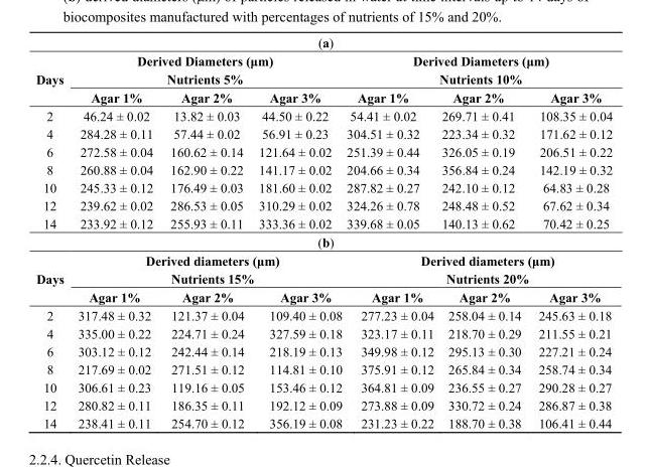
<table><tbody><tr><td colspan="7">(a)</td></tr><tr><td rowspan="3">Days</td><td colspan="3">Derived Diameters (μm)</td><td colspan="3">Derived Diameters (μm)</td></tr><tr><td colspan="3">Nutrients 5%</td><td colspan="3">Nutrients 10%</td></tr><tr><td>Agar 1%</td><td>Agar 2%</td><td>Agar 3%</td><td>Agar 1%</td><td>Agar 2%</td><td>Agar 3%</td></tr><tr><td>2</td><td>46.24 ± 0.02</td><td>13.82 ± 0.03</td><td>44.50 ± 0.22</td><td>54.41 ± 0.02</td><td>269.71 ± 0.41</td><td>108.35 ± 0.04</td></tr><tr><td>4</td><td>284.28 ± 0.11</td><td>57.44 ± 0.02</td><td>56.91 ± 0.23</td><td>304.51 ± 0.32</td><td>223.34 ± 0.32</td><td>171.62 ± 0.12</td></tr><tr><td>6</td><td>272.58 ± 0.04</td><td>160.62 ± 0.14</td><td>121.64 ± 0.02</td><td>251.39 ± 0.44</td><td>326.05 ± 0.19</td><td>206.51 ± 0.22</td></tr><tr><td>8</td><td>260.88 ± 0.04</td><td>162.90 ± 0.22</td><td>141.17 ± 0.02</td><td>204.66 ± 0.34</td><td>356.84 ± 0.24</td><td>142.19 ± 0.32</td></tr><tr><td>10</td><td>245.33 ± 0.12</td><td>176.49 ± 0.03</td><td>181.60 ± 0.02</td><td>287.82 ± 0.27</td><td>242.10 ± 0.12</td><td>64.83 ± 0.28</td></tr><tr><td>12</td><td>239.62 ± 0.02</td><td>286.53 ± 0.05</td><td>310.29 ± 0.02</td><td>324.26 ± 0.78</td><td>248.48 ± 0.52</td><td>67.62 ± 0.34</td></tr><tr><td>14</td><td>233.92 ± 0.12</td><td>255.93 ± 0.11</td><td>333.36 ± 0.02</td><td>339.68 ± 0.05</td><td>140.13 ± 0.62</td><td>70.42 ± 0.25</td></tr><tr><td colspan="7">(b)</td></tr><tr><td rowspan="3">Days</td><td colspan="3">Derived diameters (μm)</td><td colspan="3">Derived diameters (μm)</td></tr><tr><td colspan="3">Nutrients 15%</td><td colspan="3">Nutrients 20%</td></tr><tr><td>Agar 1%</td><td>Agar 2%</td><td>Agar 3%</td><td>Agar 1%</td><td>Agar 2%</td><td>Agar 3%</td></tr><tr><td>2</td><td>317.48 ± 0.32</td><td>121.37 ± 0.04</td><td>109.40 ± 0.08</td><td>277.23 ± 0.04</td><td>258.04 ± 0.14</td><td>245.63 ± 0.18</td></tr><tr><td>4</td><td>335.00 ± 0.22</td><td>224.71 ± 0.24</td><td>327.59 ± 0.18</td><td>323.17 ± 0.11</td><td>218.70 ± 0.29</td><td>211.55 ± 0.21</td></tr><tr><td>6</td><td>303.12 ± 0.12</td><td>242.44 ± 0.14</td><td>218.19 ± 0.13</td><td>349.98 ± 0.12</td><td>295.13 ± 0.30</td><td>227.21 ± 0.24</td></tr><tr><td>8</td><td>217.69 ± 0.02</td><td>271.51 ± 0.12</td><td>114.81 ± 0.10</td><td>375.91 ± 0.12</td><td>265.84 ± 0.34</td><td>258.74 ± 0.34</td></tr><tr><td>10</td><td>306.61 ± 0.23</td><td>119.16 ± 0.05</td><td>153.46 ± 0.12</td><td>364.81 ± 0.09</td><td>236.55 ± 0.27</td><td>290.28 ± 0.27</td></tr><tr><td>12</td><td>280.82 ± 0.11</td><td>186.35 ± 0.11</td><td>192.12 ± 0.09</td><td>273.88 ± 0.09</td><td>330.72 ± 0.24</td><td>286.87 ± 0.38</td></tr><tr><td>14</td><td>238.41 ± 0.11</td><td>254.70 ± 0.12</td><td>356.19 ± 0.08</td><td>231.23 ± 0.22</td><td>188.70 ± 0.38</td><td>106.41 ± 0.44</td></tr></tbody></table>